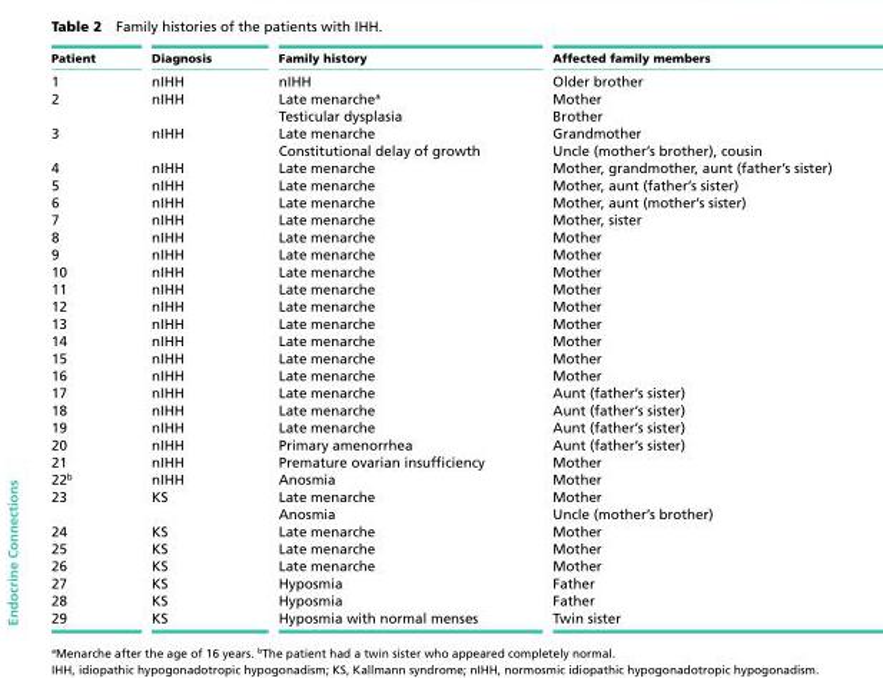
<table><thead><tr><td>Patient</td><td>Diagnosis</td><td>Family history</td><td>Affected family members</td></tr></thead><tbody><tr><td>1</td><td>nIHH</td><td>nIHH</td><td>Older brother</td></tr><tr><td rowspan="2">2</td><td>nIHH</td><td>Late menarche<sup>a</sup></td><td>Mother</td></tr><tr><td></td><td>Testicular dysplasia</td><td>Brother</td></tr><tr><td rowspan="2">3</td><td>nIHH</td><td>Late menarche</td><td>Grandmother</td></tr><tr><td></td><td>Constitutional delay of growth</td><td>Uncle (mother’s brother), cousin</td></tr><tr><td>4</td><td>nIHH</td><td>Late menarche</td><td>Mother, grandmother, aunt (father’s sister)</td></tr><tr><td>5</td><td>nIHH</td><td>Late menarche</td><td>Mother, aunt (father’s sister)</td></tr><tr><td>6</td><td>nIHH</td><td>Late menarche</td><td>Mother, aunt (mother’s sister)</td></tr><tr><td>7</td><td>nIHH</td><td>Late menarche</td><td>Mother, sister</td></tr><tr><td>8</td><td>nIHH</td><td>Late menarche</td><td>Mother</td></tr><tr><td>9</td><td>nIHH</td><td>Late menarche</td><td>Mother</td></tr><tr><td>10</td><td>nIHH</td><td>Late menarche</td><td>Mother</td></tr><tr><td>11</td><td>nIHH</td><td>Late menarche</td><td>Mother</td></tr><tr><td>12</td><td>nIHH</td><td>Late menarche</td><td>Mother</td></tr><tr><td>13</td><td>nIHH</td><td>Late menarche</td><td>Mother</td></tr><tr><td>14</td><td>nIHH</td><td>Late menarche</td><td>Mother</td></tr><tr><td>15</td><td>nIHH</td><td>Late menarche</td><td>Mother</td></tr><tr><td>16</td><td>nIHH</td><td>Late menarche</td><td>Mother</td></tr><tr><td>17</td><td>nIHH</td><td>Late menarche</td><td>Aunt (father’s sister)</td></tr><tr><td>18</td><td>nIHH</td><td>Late menarche</td><td>Aunt (father’s sister)</td></tr><tr><td>19</td><td>nIHH</td><td>Late menarche</td><td>Aunt (father’s sister)</td></tr><tr><td>20</td><td>nIHH</td><td>Primary amenorrhea</td><td>Aunt (father’s sister)</td></tr><tr><td>21</td><td>nIHH</td><td>Premature ovarian insufficiency</td><td>Mother</td></tr><tr><td>22<sup>b</sup></td><td>nIHH</td><td>Anosmia</td><td>Mother</td></tr><tr><td rowspan="2">23</td><td>KS</td><td>Late menarche</td><td>Mother</td></tr><tr><td></td><td>Anosmia</td><td>Uncle (mother’s brother)</td></tr><tr><td>24</td><td>KS</td><td>Late menarche</td><td>Mother</td></tr><tr><td>25</td><td>KS</td><td>Late menarche</td><td>Mother</td></tr><tr><td>26</td><td>KS</td><td>Late menarche</td><td>Mother</td></tr><tr><td>27</td><td>KS</td><td>Hyposmia</td><td>Father</td></tr><tr><td>28</td><td>KS</td><td>Hyposmia</td><td>Father</td></tr><tr><td>29</td><td>KS</td><td>Hyposmia with normal menses</td><td>Twin sister</td></tr></tbody></table>